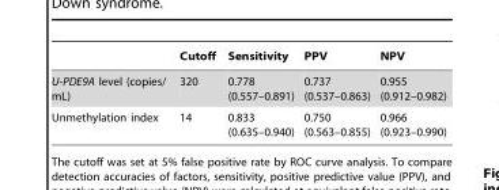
<table><thead><tr><td></td><td>Cutoff</td><td>Sensitivity</td><td>PPV</td><td>NPV</td></tr></thead><tbody><tr><td>U-PDE9A level (copies/ mL)</td><td>320</td><td>0.778 (0.557–0.891)</td><td>0.737 (0.537–0.863)</td><td>0.955 (0.912–0.982)</td></tr><tr><td>Unmethylation index</td><td>14</td><td>0.833 (0.635–0.940)</td><td>0.750 (0.563–0.855)</td><td>0.966 (0.923–0.990)</td></tr></tbody></table>